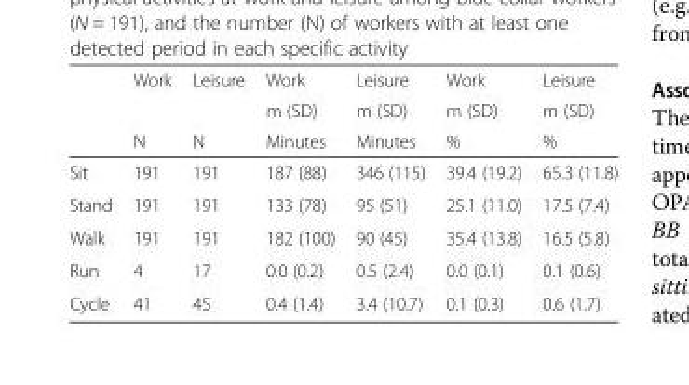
<table><thead><tr><td rowspan="3"></td><td rowspan="3">Work N</td><td rowspan="3">Leisure N</td><td rowspan="3">Work m (SD) Minutes</td><td rowspan="3">Leisure m (SD) Minutes</td><td rowspan="3">Work m (SD) %</td><td rowspan="3">Leisure m (SD) %</td></tr><tr></tr><tr></tr></thead><tbody><tr><td>Sit</td><td>191</td><td>191</td><td>187 (88)</td><td>346 (115)</td><td>39.4 (19.2)</td><td>65.3 (11.8)</td></tr><tr><td>Stand</td><td>191</td><td>191</td><td>133 (78)</td><td>95 (51)</td><td>25.1 (11.0)</td><td>17.5 (7.4)</td></tr><tr><td>Walk</td><td>191</td><td>191</td><td>182 (100)</td><td>90 (45)</td><td>35.4 (13.8)</td><td>16.5 (5.8)</td></tr><tr><td>Run</td><td>4</td><td>17</td><td>0.0 (0.2)</td><td>0.5 (2.4)</td><td>0.0 (0.1)</td><td>0.1 (0.6)</td></tr><tr><td>Cycle</td><td>41</td><td>45</td><td>0.4 (1.4)</td><td>3.4 (10.7)</td><td>0.1 (0.3)</td><td>0.6 (1.7)</td></tr></tbody></table>